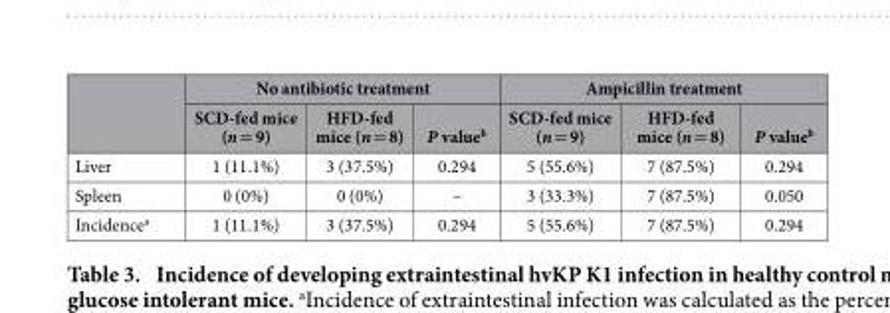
<table><thead><tr><td rowspan="2"></td><td colspan="3">No antibiotic treatment</td><td colspan="3">Ampicillin treatment</td></tr><tr><td>SCD-fed mice (n = 9)</td><td>HFD-fed mice (n = 8)</td><td>P value<sup>b</sup></td><td>SCD-fed mice (n = 9)</td><td>HFD-fed mice (n = 8)</td><td>P value<sup>b</sup></td></tr></thead><tbody><tr><td>Liver</td><td>1 (11.1%)</td><td>3 (37.5%)</td><td>0.294</td><td>5 (55.6%)</td><td>7 (87.5%)</td><td>0.294</td></tr><tr><td>Spleen</td><td>0 (0%)</td><td>0 (0%)</td><td>–</td><td>3 (33.3%)</td><td>7 (87.5%)</td><td>0.050</td></tr><tr><td>Incidence<sup>a</sup></td><td>1 (11.1%)</td><td>3 (37.5%)</td><td>0.294</td><td>5 (55.6%)</td><td>7 (87.5%)</td><td>0.294</td></tr></tbody></table>